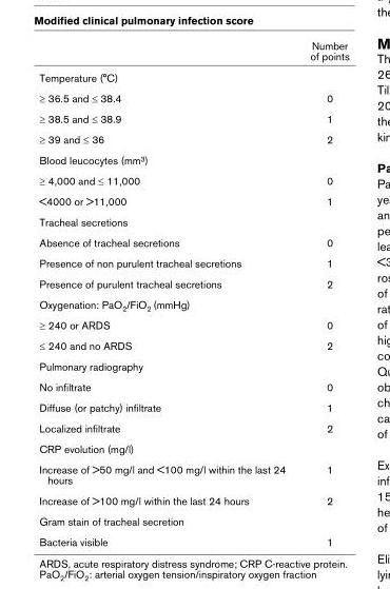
<table><thead><tr><td></td><td>Number of points</td></tr></thead><tbody><tr><td colspan="2">Temperature (°C)</td></tr><tr><td>≥ 36.5 and ≤ 38.4</td><td>0</td></tr><tr><td>≥ 38.5 and ≤ 38.9</td><td>1</td></tr><tr><td>≥ 39 and ≤ 36</td><td>2</td></tr><tr><td colspan="2">Blood leucocytes (mm3)</td></tr><tr><td>≥ 4,000 and ≤ 11,000</td><td>0</td></tr><tr><td>&lt;4000 or &gt;11,000</td><td>1</td></tr><tr><td colspan="2">Tracheal secretions</td></tr><tr><td>Absence of tracheal secretions</td><td>0</td></tr><tr><td>Presence of non purulent tracheal secretions</td><td>1</td></tr><tr><td>Presence of purulent tracheal secretions</td><td>2</td></tr><tr><td colspan="2">Oxygenation: PaO2/FiO2 (mmHg)</td></tr><tr><td>≥ 240 or ARDS</td><td>0</td></tr><tr><td>≤ 240 and no ARDS</td><td>2</td></tr><tr><td colspan="2">Pulmonary radiography</td></tr><tr><td>No infiltrate</td><td>0</td></tr><tr><td>Diffuse (or patchy) infiltrate</td><td>1</td></tr><tr><td>Localized infiltrate</td><td>2</td></tr><tr><td colspan="2">CRP evolution (mg/l)</td></tr><tr><td>Increase of &gt;50 mg/l and &lt;100 mg/l within the last 24 hours</td><td>1</td></tr><tr><td>Increase of &gt;100 mg/l within the last 24 hours</td><td>2</td></tr><tr><td colspan="2">Gram stain of tracheal secretion</td></tr><tr><td>Bacteria visible</td><td>1</td></tr></tbody></table>